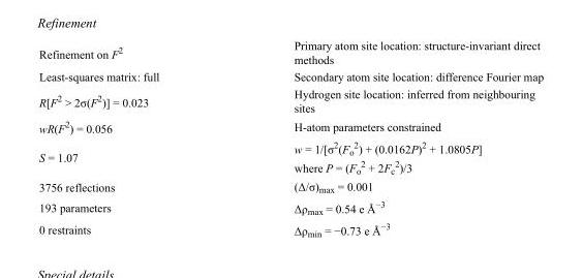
<table><tbody><tr><td>Refinement on F<sup>2</sup></td><td>Primary atom site location: structure-invariant direct methods</td></tr><tr><td>Least-squares matrix: full</td><td>Secondary atom site location: difference Fourier map</td></tr><tr><td>R[F<sup>2</sup> &gt; 2σ(F<sup>2</sup>)] = 0.023</td><td>Hydrogen site location: inferred from neighbouring sites</td></tr><tr><td>wR(F<sup>2</sup>) = 0.056</td><td>H-atom parameters constrained</td></tr><tr><td>S = 1.07</td><td>w = 1/[σ<sup>2</sup>(F<sub>o</sub> <sup>2</sup>) + (0.0162P)<sup>2</sup> + 1.0805P] where P = (F<sub>o</sub> <sup>2</sup> + 2F<sub>c</sub> <sup>2</sup>)/3</td></tr><tr><td>3756 reflections</td><td>(Δ/σ)<sub>max</sub> = 0.001</td></tr><tr><td>193 parameters</td><td>Δρ<sub>max</sub> = 0.54 e Å<sup>−3</sup></td></tr><tr><td>0 restraints</td><td>Δρmin = −0.73 e Å−3</td></tr></tbody></table>